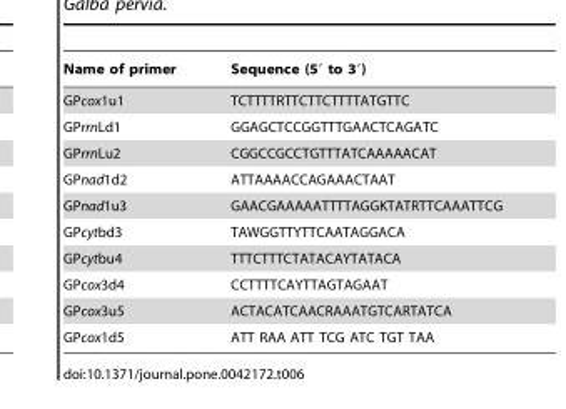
<table><thead><tr><td>Name of primer</td><td>Sequence (5′ to 3′)</td></tr></thead><tbody><tr><td>GPcox1u1</td><td>TCTTTTRTTCTTCTTTTATGTTC</td></tr><tr><td>GPrrnLd1</td><td>GGAGCTCCGGTTTGAACTCAGATC</td></tr><tr><td>GPrrnLu2</td><td>CGGCCGCCTGTTTATCAAAAACAT</td></tr><tr><td>GPnad1d2</td><td>ATTAAAACCAGAAACTAAT</td></tr><tr><td>GPnad1u3</td><td>GAACGAAAAATTTTAGGKTATRTTCAAATTCG</td></tr><tr><td>GPcytbd3</td><td>TAWGGTTYTTCAATAGGACA</td></tr><tr><td>GPcytbu4</td><td>TTTCTTTCTATACAYTATACA</td></tr><tr><td>GPcox3d4</td><td>CCTTTTCAYTTAGTAGAAT</td></tr><tr><td>GPcox3u5</td><td>ACTACATCAACRAAATGTCARTATCA</td></tr><tr><td>GPcox1d5</td><td>ATT RAA ATT TCG ATC TGT TAA</td></tr></tbody></table>